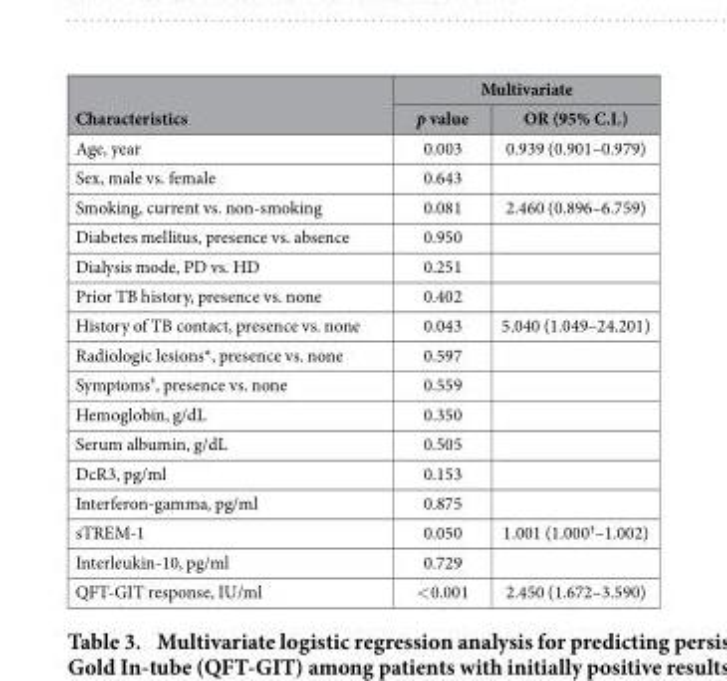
<table><thead><tr><td rowspan="2">Characteristics</td><td colspan="2">Multivariate</td></tr><tr><td>p value</td><td>OR (95% C.I.)</td></tr></thead><tbody><tr><td>Age, year</td><td>0.003</td><td>0.939 (0.901–0.979)</td></tr><tr><td>Sex, male vs. female</td><td>0.643</td><td></td></tr><tr><td>Smoking, current vs. non-smoking</td><td>0.081</td><td>2.460 (0.896–6.759)</td></tr><tr><td>Diabetes mellitus, presence vs. absence</td><td>0.950</td><td></td></tr><tr><td>Dialysis mode, PD vs. HD</td><td>0.251</td><td></td></tr><tr><td>Prior TB history, presence vs. none</td><td>0.402</td><td></td></tr><tr><td>History of TB contact, presence vs. none</td><td>0.043</td><td>5.040 (1.049–24.201)</td></tr><tr><td>Radiologic lesions*, presence vs. none</td><td>0.597</td><td></td></tr><tr><td>Symptoms<sup>ǂ</sup>, presence vs. none</td><td>0.559</td><td></td></tr><tr><td>Hemoglobin, g/dL</td><td>0.350</td><td></td></tr><tr><td>Serum albumin, g/dL</td><td>0.505</td><td></td></tr><tr><td>DcR3, pg/ml</td><td>0.153</td><td></td></tr><tr><td>Interferon-gamma, pg/ml</td><td>0.875</td><td></td></tr><tr><td>sTREM-1</td><td>0.050</td><td>1.001 (1.000<sup>†</sup>–1.002)</td></tr><tr><td>Interleukin-10, pg/ml</td><td>0.729</td><td></td></tr><tr><td>QFT-GIT response, IU/ml</td><td>&lt; 0.001</td><td>2.450 (1.672–3.590)</td></tr></tbody></table>